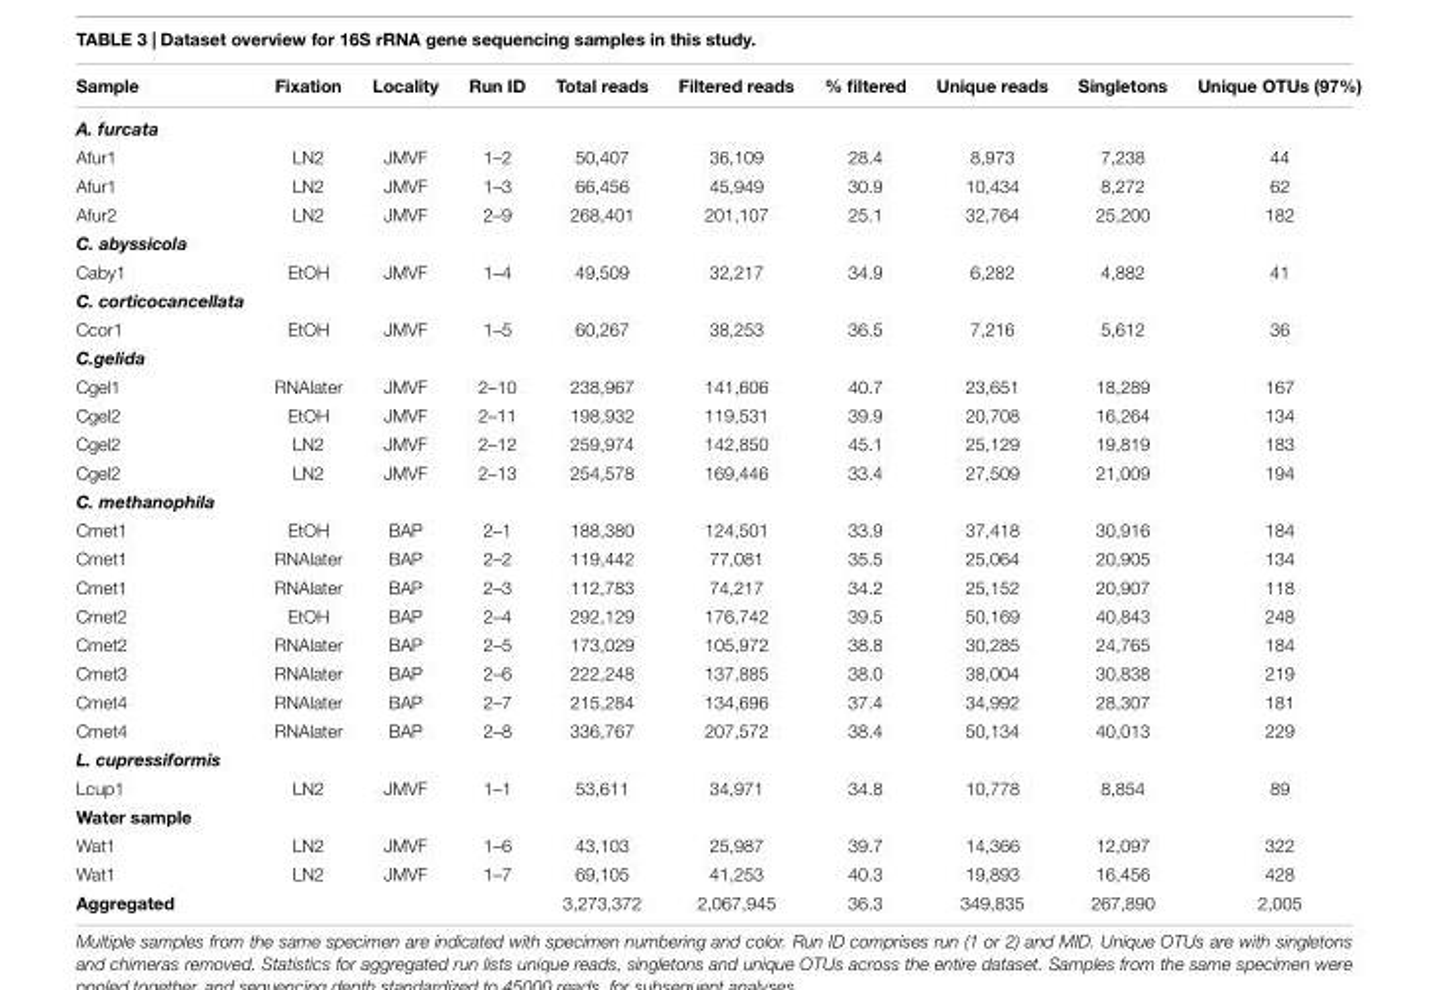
<table><thead><tr><td>Sample</td><td>Fixation</td><td>Locality</td><td>Run ID</td><td>Total reads</td><td>Filtered reads</td><td>% filtered</td><td>Unique reads</td><td>Singletons</td><td>Unique OTUs (97%)</td></tr></thead><tbody><tr><td colspan="10">A. furcata</td></tr><tr><td>Afur1</td><td>LN2</td><td>JMVF</td><td>1–2</td><td>50,407</td><td>36,109</td><td>28.4</td><td>8,973</td><td>7,238</td><td>44</td></tr><tr><td>Afur1</td><td>LN2</td><td>JMVF</td><td>1–3</td><td>66,456</td><td>45,949</td><td>30.9</td><td>10,434</td><td>8,272</td><td>62</td></tr><tr><td>Afur2</td><td>LN2</td><td>JMVF</td><td>2–9</td><td>268,401</td><td>201,107</td><td>25.1</td><td>32,764</td><td>25,200</td><td>182</td></tr><tr><td colspan="10">C. abyssicola</td></tr><tr><td>Caby1</td><td>EtOH</td><td>JMVF</td><td>1–4</td><td>49,509</td><td>32,217</td><td>34.9</td><td>6,282</td><td>4,882</td><td>41</td></tr><tr><td colspan="10">C. corticocancellata</td></tr><tr><td>Ccor1</td><td>EtOH</td><td>JMVF</td><td>1–5</td><td>60,267</td><td>38,253</td><td>36.5</td><td>7,216</td><td>5,612</td><td>36</td></tr><tr><td colspan="10">C.gelida</td></tr><tr><td>Cgel1</td><td>RNAlater</td><td>JMVF</td><td>2–10</td><td>238,967</td><td>141,606</td><td>40.7</td><td>23,651</td><td>18,289</td><td>167</td></tr><tr><td>Cgel2</td><td>EtOH</td><td>JMVF</td><td>2–11</td><td>198,932</td><td>119,531</td><td>39.9</td><td>20,708</td><td>16,264</td><td>134</td></tr><tr><td>Cgel2</td><td>LN2</td><td>JMVF</td><td>2–12</td><td>259,974</td><td>142,850</td><td>45.1</td><td>25,129</td><td>19,819</td><td>183</td></tr><tr><td>Cgel2</td><td>LN2</td><td>JMVF</td><td>2–13</td><td>254,578</td><td>169,446</td><td>33.4</td><td>27,509</td><td>21,009</td><td>194</td></tr><tr><td colspan="10">C. methanophila</td></tr><tr><td>Cmet1</td><td>EtOH</td><td>BAP</td><td>2–1</td><td>188,380</td><td>124,501</td><td>33.9</td><td>37,418</td><td>30,916</td><td>184</td></tr><tr><td>Cmet1</td><td>RNAlater</td><td>BAP</td><td>2–2</td><td>119,442</td><td>77,081</td><td>35.5</td><td>25,064</td><td>20,905</td><td>134</td></tr><tr><td>Cmet1</td><td>RNAlater</td><td>BAP</td><td>2–3</td><td>112,783</td><td>74,217</td><td>34.2</td><td>25,152</td><td>20,907</td><td>118</td></tr><tr><td>Cmet2</td><td>EtOH</td><td>BAP</td><td>2–4</td><td>292,129</td><td>176,742</td><td>39.5</td><td>50,169</td><td>40,843</td><td>248</td></tr><tr><td>Cmet2</td><td>RNAlater</td><td>BAP</td><td>2–5</td><td>173,029</td><td>105,972</td><td>38.8</td><td>30,285</td><td>24,765</td><td>184</td></tr><tr><td>Cmet3</td><td>RNAlater</td><td>BAP</td><td>2–6</td><td>222,248</td><td>137,885</td><td>38.0</td><td>38,004</td><td>30,838</td><td>219</td></tr><tr><td>Cmet4</td><td>RNAlater</td><td>BAP</td><td>2–7</td><td>215,284</td><td>134,696</td><td>37.4</td><td>34,992</td><td>28,307</td><td>181</td></tr><tr><td>Cmet4</td><td>RNAlater</td><td>BAP</td><td>2–8</td><td>336,767</td><td>207,572</td><td>38.4</td><td>50,134</td><td>40,013</td><td>229</td></tr><tr><td colspan="10">L. cupressiformis</td></tr><tr><td>Lcup1</td><td>LN2</td><td>JMVF</td><td>1–1</td><td>53,611</td><td>34,971</td><td>34.8</td><td>10,778</td><td>8,854</td><td>89</td></tr><tr><td colspan="10">Water sample</td></tr><tr><td>Wat1</td><td>LN2</td><td>JMVF</td><td>1–6</td><td>43,103</td><td>25,987</td><td>39.7</td><td>14,366</td><td>12,097</td><td>322</td></tr><tr><td>Wat1</td><td>LN2</td><td>JMVF</td><td>1–7</td><td>69,105</td><td>41,253</td><td>40.3</td><td>19,893</td><td>16,456</td><td>428</td></tr><tr><td>Aggregated</td><td></td><td></td><td></td><td>3,273,372</td><td>2,067,945</td><td>36.3</td><td>349,835</td><td>267,890</td><td>2,005</td></tr></tbody></table>